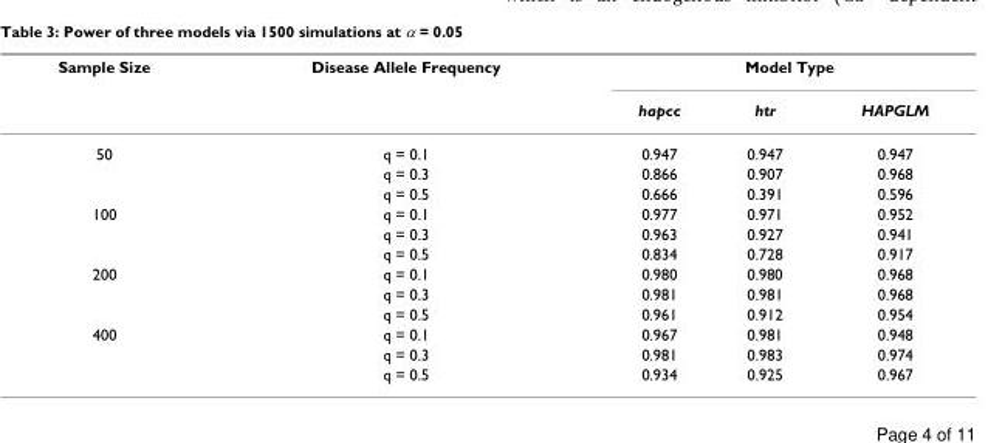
<table><thead><tr><td rowspan="2">Sample Size</td><td rowspan="2">Disease Allele Frequency</td><td colspan="3">Model Type</td></tr><tr><td>hapcc</td><td>htr</td><td>HAPGLM</td></tr></thead><tbody><tr><td rowspan="3">50</td><td>q = 0.1</td><td>0.947</td><td>0.947</td><td>0.947</td></tr><tr><td>q = 0.3</td><td>0.866</td><td>0.907</td><td>0.968</td></tr><tr><td>q = 0.5</td><td>0.666</td><td>0.391</td><td>0.596</td></tr><tr><td rowspan="3">100</td><td>q = 0.1</td><td>0.977</td><td>0.971</td><td>0.952</td></tr><tr><td>q = 0.3</td><td>0.963</td><td>0.927</td><td>0.941</td></tr><tr><td>q = 0.5</td><td>0.834</td><td>0.728</td><td>0.917</td></tr><tr><td rowspan="3">200</td><td>q = 0.1</td><td>0.980</td><td>0.980</td><td>0.968</td></tr><tr><td>q = 0.3</td><td>0.981</td><td>0.981</td><td>0.968</td></tr><tr><td>q = 0.5</td><td>0.961</td><td>0.912</td><td>0.954</td></tr><tr><td rowspan="3">400</td><td>q = 0.1</td><td>0.967</td><td>0.981</td><td>0.948</td></tr><tr><td>q = 0.3</td><td>0.981</td><td>0.983</td><td>0.974</td></tr><tr><td>q = 0.5</td><td>0.934</td><td>0.925</td><td>0.967</td></tr></tbody></table>